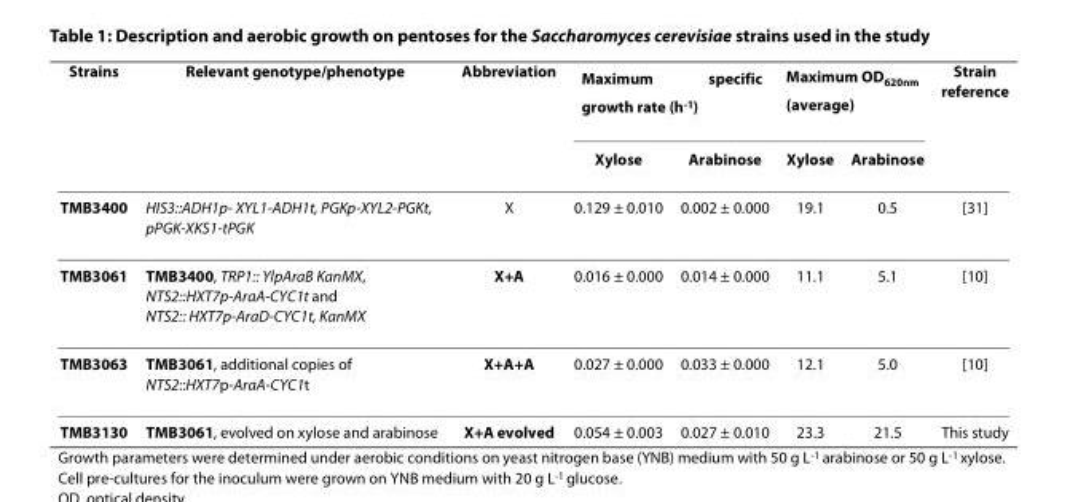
<table><thead><tr><td rowspan="2">Strains</td><td rowspan="2">Relevant genotype/phenotype</td><td rowspan="2">Abbreviation</td><td colspan="2">Maximum specific growth rate (h<sup>-1</sup>)</td><td colspan="2">Maximum OD<sub>620nm</sub> (average)</td><td rowspan="2">Strain reference</td></tr><tr><td>Xylose</td><td>Arabinose</td><td>Xylose</td><td>Arabinose</td></tr></thead><tbody><tr><td>TMB3400</td><td>HIS3::ADH1p- XYL1-ADH1t, PGKp-XYL2-PGKt, pPGK-XKS1-tPGK</td><td>X</td><td>0.129 ± 0.010</td><td>0.002 ± 0.000</td><td>19.1</td><td>0.5</td><td>[31]</td></tr><tr><td>TMB3061</td><td>TMB3400, TRP1:: YlpAraB KanMX, NTS2::HXT7p-AraA-CYC1t and NTS2:: HXT7p-AraD-CYC1t, KanMX</td><td>X+A</td><td>0.016 ± 0.000</td><td>0.014 ± 0.000</td><td>11.1</td><td>5.1</td><td>[10]</td></tr><tr><td>TMB3063</td><td>TMB3061, additional copies of NTS2::HXT7p-AraA-CYC1t</td><td>X+A+A</td><td>0.027 ± 0.000</td><td>0.033 ± 0.000</td><td>12.1</td><td>5.0</td><td>[10]</td></tr><tr><td>TMB3130</td><td>TMB3061, evolved on xylose and arabinose</td><td>X+A evolved</td><td>0.054 ± 0.003</td><td>0.027 ± 0.010</td><td>23.3</td><td>21.5</td><td>This study</td></tr></tbody></table>